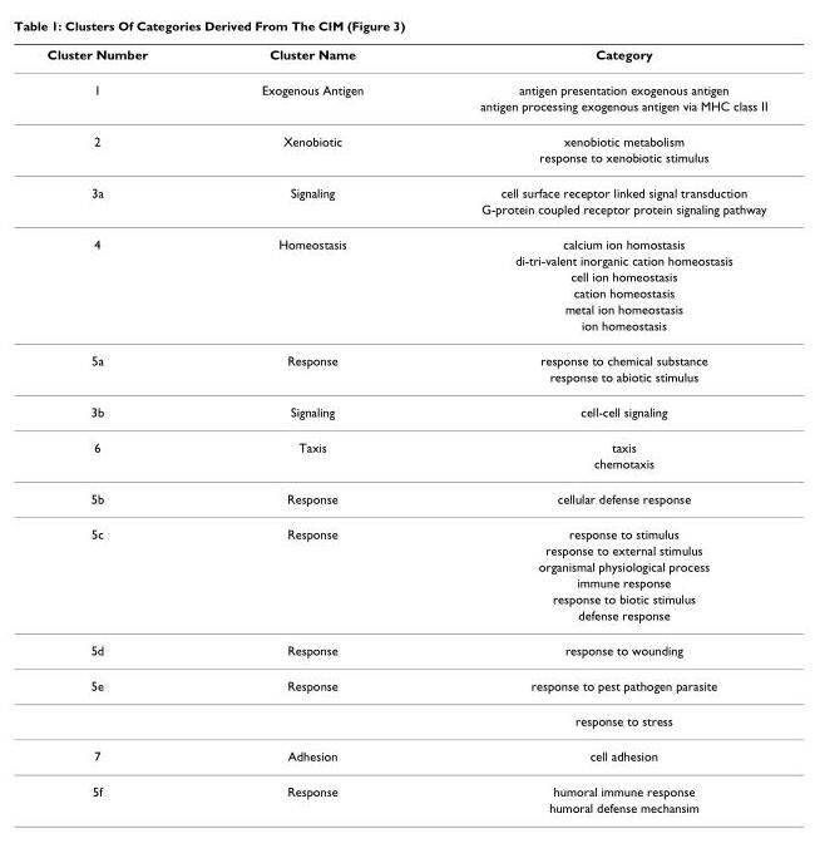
<table><thead><tr><td>Cluster Number</td><td>Cluster Name</td><td>Category</td></tr></thead><tbody><tr><td rowspan="2">1</td><td>Exogenous Antigen</td><td>antigen presentation exogenous antigen</td></tr><tr><td></td><td>antigen processing exogenous antigen via MHC class II</td></tr><tr><td rowspan="2">2</td><td>Xenobiotic</td><td>xenobiotic metabolism</td></tr><tr><td></td><td>response to xenobiotic stimulus</td></tr><tr><td rowspan="2">3a</td><td>Signaling</td><td>cell surface receptor linked signal transduction</td></tr><tr><td></td><td>G-protein coupled receptor protein signaling pathway</td></tr><tr><td rowspan="6">4</td><td>Homeostasis</td><td>calcium ion homostasis</td></tr><tr><td></td><td>di-tri-valent inorganic cation homeostasis</td></tr><tr><td></td><td>cell ion homeostasis</td></tr><tr><td></td><td>cation homeostasis</td></tr><tr><td></td><td>metal ion homeostasis</td></tr><tr><td></td><td>ion homeostasis</td></tr><tr><td rowspan="2">5a</td><td>Response</td><td>response to chemical substance</td></tr><tr><td></td><td>response to abiotic stimulus</td></tr><tr><td>3b</td><td>Signaling</td><td>cell-cell signaling</td></tr><tr><td rowspan="2">6</td><td>Taxis</td><td>taxis</td></tr><tr><td></td><td>chemotaxis</td></tr><tr><td>5b</td><td>Response</td><td>cellular defense response</td></tr><tr><td rowspan="6">5c</td><td>Response</td><td>response to stimulus</td></tr><tr><td></td><td>response to external stimulus</td></tr><tr><td></td><td>organismal physiological process</td></tr><tr><td></td><td>immune response</td></tr><tr><td></td><td>response to biotic stimulus</td></tr><tr><td></td><td>defense response</td></tr><tr><td>5d</td><td>Response</td><td>response to wounding</td></tr><tr><td rowspan="2">5e</td><td>Response</td><td>response to pest pathogen parasite</td></tr><tr><td></td><td>response to stress</td></tr><tr><td>7</td><td>Adhesion</td><td>cell adhesion</td></tr><tr><td rowspan="2">5f</td><td>Response</td><td>humoral immune response</td></tr><tr><td></td><td>humoral defense mechansim</td></tr></tbody></table>